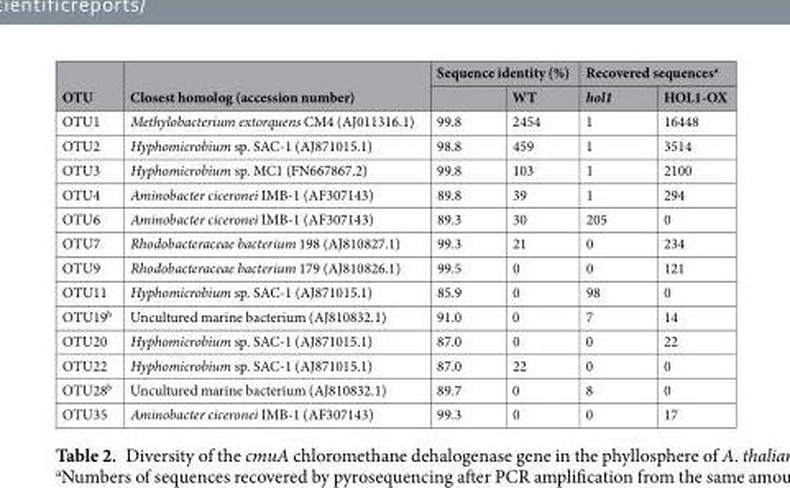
<table><thead><tr><td rowspan="2">OTU</td><td rowspan="2">Closest homolog (accession number)</td><td colspan="2">Sequence identity (%)</td><td colspan="2">Recovered sequences<sup>a</sup></td></tr><tr><td></td><td>WT</td><td>hol1</td><td>HOL1-OX</td></tr></thead><tbody><tr><td>OTU1</td><td>Methylobacterium extorquens CM4 (AJ011316.1)</td><td>99.8</td><td>2454</td><td>1</td><td>16448</td></tr><tr><td>OTU2</td><td>Hyphomicrobium sp. SAC-1 (AJ871015.1)</td><td>98.8</td><td>459</td><td>1</td><td>3514</td></tr><tr><td>OTU3</td><td>Hyphomicrobium sp. MC1 (FN667867.2)</td><td>99.8</td><td>103</td><td>1</td><td>2100</td></tr><tr><td>OTU4</td><td>Aminobacter ciceronei IMB-1 (AF307143)</td><td>89.8</td><td>39</td><td>1</td><td>294</td></tr><tr><td>OTU6</td><td>Aminobacter ciceronei IMB-1 (AF307143)</td><td>89.3</td><td>30</td><td>205</td><td>0</td></tr><tr><td>OTU7</td><td>Rhodobacteraceae bacterium 198 (AJ810827.1)</td><td>99.3</td><td>21</td><td>0</td><td>234</td></tr><tr><td>OTU9</td><td>Rhodobacteraceae bacterium 179 (AJ810826.1)</td><td>99.5</td><td>0</td><td>0</td><td>121</td></tr><tr><td>OTU11</td><td>Hyphomicrobium sp. SAC-1 (AJ871015.1)</td><td>85.9</td><td>0</td><td>98</td><td>0</td></tr><tr><td>OTU19<sup>b</sup></td><td>Uncultured marine bacterium (AJ810832.1)</td><td>91.0</td><td>0</td><td>7</td><td>14</td></tr><tr><td>OTU20</td><td>Hyphomicrobium sp. SAC-1 (AJ871015.1)</td><td>87.0</td><td>0</td><td>0</td><td>22</td></tr><tr><td>OTU22</td><td>Hyphomicrobium sp. SAC-1 (AJ871015.1)</td><td>87.0</td><td>22</td><td>0</td><td>0</td></tr><tr><td>OTU28<sup>b</sup></td><td>Uncultured marine bacterium (AJ810832.1)</td><td>89.7</td><td>0</td><td>8</td><td>0</td></tr><tr><td>OTU35</td><td>Aminobacter ciceronei IMB-1 (AF307143)</td><td>99.3</td><td>0</td><td>0</td><td>17</td></tr></tbody></table>